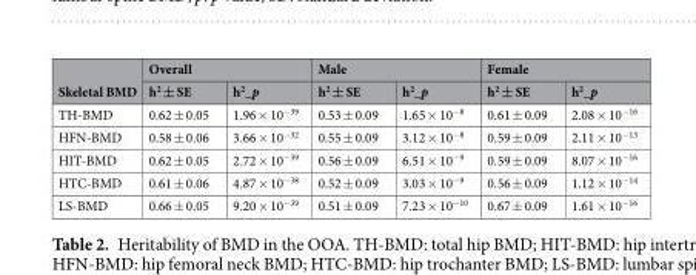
<table><thead><tr><td rowspan="2">Skeletal BMD</td><td colspan="2">Overall</td><td colspan="2">Male</td><td colspan="2">Female</td></tr><tr><td>h<sup>2</sup> ± SE</td><td>h<sup>2</sup>_p</td><td>h<sup>2</sup> ± SE</td><td>h<sup>2</sup>_p</td><td>h<sup>2</sup> ± SE</td><td>h<sup>2</sup>_p</td></tr></thead><tbody><tr><td>TH-BMD</td><td>0.62 ± 0.05</td><td>1.96 × 10<sup>−39</sup></td><td>0.53 ± 0.09</td><td>1.65 × 10<sup>−8</sup></td><td>0.61 ± 0.09</td><td>2.08 × 10<sup>−16</sup></td></tr><tr><td>HFN-BMD</td><td>0.58 ± 0.06</td><td>3.66 × 10<sup>−32</sup></td><td>0.55 ± 0.09</td><td>3.12 × 10<sup>−8</sup></td><td>0.59 ± 0.09</td><td>2.11 × 10<sup>−13</sup></td></tr><tr><td>HIT-BMD</td><td>0.62 ± 0.05</td><td>2.72 × 10<sup>−39</sup></td><td>0.56 ± 0.09</td><td>6.51 × 10<sup>−9</sup></td><td>0.59 ± 0.09</td><td>8.07 × 10<sup>−16</sup></td></tr><tr><td>HTC-BMD</td><td>0.61 ± 0.06</td><td>4.87 × 10<sup>−38</sup></td><td>0.52 ± 0.09</td><td>3.03 × 10<sup>−9</sup></td><td>0.56 ± 0.09</td><td>1.12 × 10<sup>−14</sup></td></tr><tr><td>LS-BMD</td><td>0.66 ± 0.05</td><td>9.20 × 10<sup>−39</sup></td><td>0.51 ± 0.09</td><td>7.23 × 10<sup>−10</sup></td><td>0.67 ± 0.09</td><td>1.61 × 10<sup>−16</sup></td></tr></tbody></table>